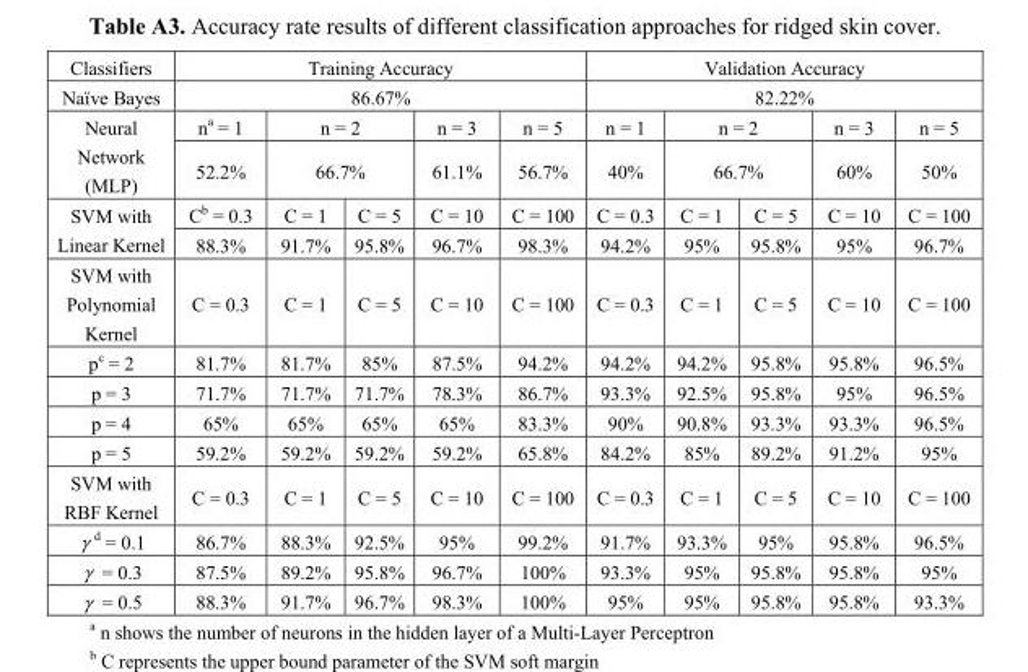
<table><thead><tr><td>Classifiers</td><td colspan="5">Training Accuracy</td><td colspan="5">Validation Accuracy</td></tr></thead><tbody><tr><td>Naïve Bayes</td><td colspan="5">86.67%</td><td colspan="5">82.22%</td></tr><tr><td rowspan="2">Neural Network (MLP)</td><td>n<sup>a</sup> = 1</td><td colspan="2">n = 2</td><td>n = 3</td><td>n = 5</td><td>n = 1</td><td colspan="2">n = 2</td><td>n = 3</td><td>n = 5</td></tr><tr><td>52.2%</td><td colspan="2">66.7%</td><td>61.1%</td><td>56.7%</td><td>40%</td><td colspan="2">66.7%</td><td>60%</td><td>50%</td></tr><tr><td rowspan="2">SVM with Linear Kernel</td><td>C<sup>b</sup> = 0.3</td><td>C = 1</td><td>C = 5</td><td>C = 10</td><td>C = 100</td><td>C = 0.3</td><td>C = 1</td><td>C = 5</td><td>C = 10</td><td>C = 100</td></tr><tr><td>88.3%</td><td>91.7%</td><td>95.8%</td><td>96.7%</td><td>98.3%</td><td>94.2%</td><td>95%</td><td>95.8%</td><td>95%</td><td>96.7%</td></tr><tr><td>SVM with Polynomial Kernel</td><td>C = 0.3</td><td>C = 1</td><td>C = 5</td><td>C = 10</td><td>C = 100</td><td>C = 0.3</td><td>C = 1</td><td>C = 5</td><td>C = 10</td><td>C = 100</td></tr><tr><td>p<sup>c</sup> = 2</td><td>81.7%</td><td>81.7%</td><td>85%</td><td>87.5%</td><td>94.2%</td><td>94.2%</td><td>94.2%</td><td>95.8%</td><td>95.8%</td><td>96.5%</td></tr><tr><td>p = 3</td><td>71.7%</td><td>71.7%</td><td>71.7%</td><td>78.3%</td><td>86.7%</td><td>93.3%</td><td>92.5%</td><td>95.8%</td><td>95%</td><td>96.5%</td></tr><tr><td>p = 4</td><td>65%</td><td>65%</td><td>65%</td><td>65%</td><td>83.3%</td><td>90%</td><td>90.8%</td><td>93.3%</td><td>93.3%</td><td>96.5%</td></tr><tr><td>p = 5</td><td>59.2%</td><td>59.2%</td><td>59.2%</td><td>59.2%</td><td>65.8%</td><td>84.2%</td><td>85%</td><td>89.2%</td><td>91.2%</td><td>95%</td></tr><tr><td>SVM with RBF Kernel</td><td>C = 0.3</td><td>C = 1</td><td>C = 5</td><td>C = 10</td><td>C = 100</td><td>C = 0.3</td><td>C = 1</td><td>C = 5</td><td>C = 10</td><td>C = 100</td></tr><tr><td>γ <sup>d</sup> = 0.1</td><td>86.7%</td><td>88.3%</td><td>92.5%</td><td>95%</td><td>99.2%</td><td>91.7%</td><td>93.3%</td><td>95%</td><td>95.8%</td><td>96.5%</td></tr><tr><td>γ = 0.3</td><td>87.5%</td><td>89.2%</td><td>95.8%</td><td>96.7%</td><td>100%</td><td>93.3%</td><td>95%</td><td>95.8%</td><td>95.8%</td><td>95%</td></tr><tr><td>γ = 0.5</td><td>88.3%</td><td>91.7%</td><td>96.7%</td><td>98.3%</td><td>100%</td><td>95%</td><td>95%</td><td>95.8%</td><td>95.8%</td><td>93.3%</td></tr></tbody></table>